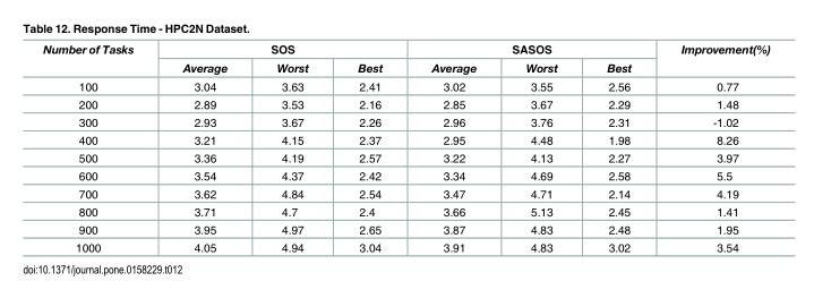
<table><thead><tr><td rowspan="2">Number of Tasks</td><td colspan="3">SOS</td><td colspan="3">SASOS</td><td rowspan="2">Improvement(%)</td></tr><tr><td>Average</td><td>Worst</td><td>Best</td><td>Average</td><td>Worst</td><td>Best</td></tr></thead><tbody><tr><td>100</td><td>3.04</td><td>3.63</td><td>2.41</td><td>3.02</td><td>3.55</td><td>2.56</td><td>0.77</td></tr><tr><td>200</td><td>2.89</td><td>3.53</td><td>2.16</td><td>2.85</td><td>3.67</td><td>2.29</td><td>1.48</td></tr><tr><td>300</td><td>2.93</td><td>3.67</td><td>2.26</td><td>2.96</td><td>3.76</td><td>2.31</td><td>-1.02</td></tr><tr><td>400</td><td>3.21</td><td>4.15</td><td>2.37</td><td>2.95</td><td>4.48</td><td>1.98</td><td>8.26</td></tr><tr><td>500</td><td>3.36</td><td>4.19</td><td>2.57</td><td>3.22</td><td>4.13</td><td>2.27</td><td>3.97</td></tr><tr><td>600</td><td>3.54</td><td>4.37</td><td>2.42</td><td>3.34</td><td>4.69</td><td>2.58</td><td>5.5</td></tr><tr><td>700</td><td>3.62</td><td>4.84</td><td>2.54</td><td>3.47</td><td>4.71</td><td>2.14</td><td>4.19</td></tr><tr><td>800</td><td>3.71</td><td>4.7</td><td>2.4</td><td>3.66</td><td>5.13</td><td>2.45</td><td>1.41</td></tr><tr><td>900</td><td>3.95</td><td>4.97</td><td>2.65</td><td>3.87</td><td>4.83</td><td>2.48</td><td>1.95</td></tr><tr><td>1000</td><td>4.05</td><td>4.94</td><td>3.04</td><td>3.91</td><td>4.83</td><td>3.02</td><td>3.54</td></tr></tbody></table>